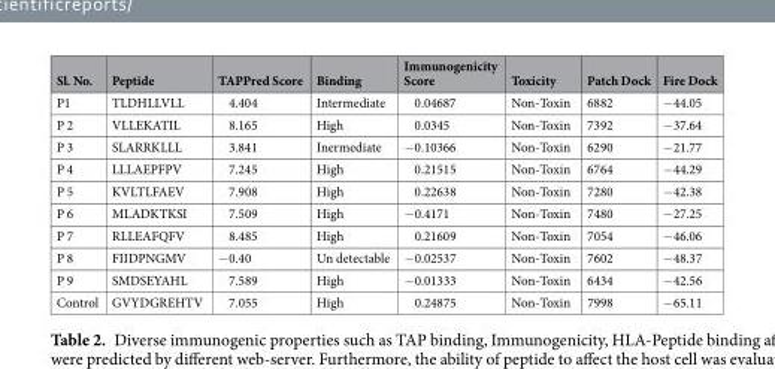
<table><thead><tr><td>Sl. No.</td><td>Peptide</td><td>TAPPred Score</td><td>Binding</td><td>Immunogenicity Score</td><td>Toxicity</td><td>Patch Dock</td><td>Fire Dock</td></tr></thead><tbody><tr><td>P1</td><td>TLDHLLVLL</td><td>4.404</td><td>Intermediate</td><td>0.04687</td><td>Non-Toxin</td><td>6882</td><td>−44.05</td></tr><tr><td>P 2</td><td>VLLEKATIL</td><td>8.165</td><td>High</td><td>0.0345</td><td>Non-Toxin</td><td>7392</td><td>−37.64</td></tr><tr><td>P 3</td><td>SLARRKLLL</td><td>3.841</td><td>Inermediate</td><td>−0.10366</td><td>Non-Toxin</td><td>6290</td><td>−21.77</td></tr><tr><td>P 4</td><td>LLLAEPFPV</td><td>7.245</td><td>High</td><td>0.21515</td><td>Non-Toxin</td><td>6764</td><td>−44.29</td></tr><tr><td>P 5</td><td>KVLTLFAEV</td><td>7.908</td><td>High</td><td>0.22638</td><td>Non-Toxin</td><td>7280</td><td>−42.38</td></tr><tr><td>P 6</td><td>MLADKTKSI</td><td>7.509</td><td>High</td><td>−0.4171</td><td>Non-Toxin</td><td>7480</td><td>−27.25</td></tr><tr><td>P 7</td><td>RLLEAFQFV</td><td>8.485</td><td>High</td><td>0.21609</td><td>Non-Toxin</td><td>7054</td><td>−46.06</td></tr><tr><td>P 8</td><td>FIIDPNGMV</td><td>−0.40</td><td>Un detectable</td><td>−0.02537</td><td>Non-Toxin</td><td>7602</td><td>−48.37</td></tr><tr><td>P 9</td><td>SMDSEYAHL</td><td>7.589</td><td>High</td><td>−0.01333</td><td>Non-Toxin</td><td>6434</td><td>−42.56</td></tr><tr><td>Control</td><td>GVYDGREHTV</td><td>7.055</td><td>High</td><td>0.24875</td><td>Non-Toxin</td><td>7998</td><td>−65.11</td></tr></tbody></table>